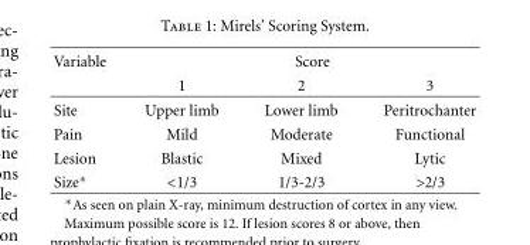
<table><tbody><tr><td rowspan="2">Variable</td><td colspan="3">Score</td></tr><tr><td>1</td><td>2</td><td>3</td></tr><tr><td>Site</td><td>Upper limb</td><td>Lower limb</td><td>Peritrochanter</td></tr><tr><td>Pain</td><td>Mild</td><td>Moderate</td><td>Functional</td></tr><tr><td>Lesion</td><td>Blastic</td><td>Mixed</td><td>Lytic</td></tr><tr><td>Size∗</td><td>&lt;1/3</td><td>1/3-2/3</td><td>&gt;2/3</td></tr></tbody></table>